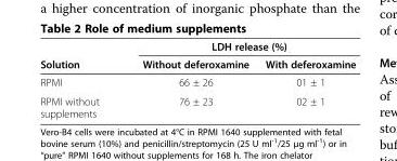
<table><thead><tr><td rowspan="2">Solution</td><td colspan="2">LDH release (%)</td></tr><tr><td>Without deferoxamine</td><td>With deferoxamine</td></tr></thead><tbody><tr><td>RPMI</td><td>66 ± 26</td><td>01 ± 1</td></tr><tr><td>RPMI without supplements</td><td>76 ± 23</td><td>02 ± 1</td></tr></tbody></table>